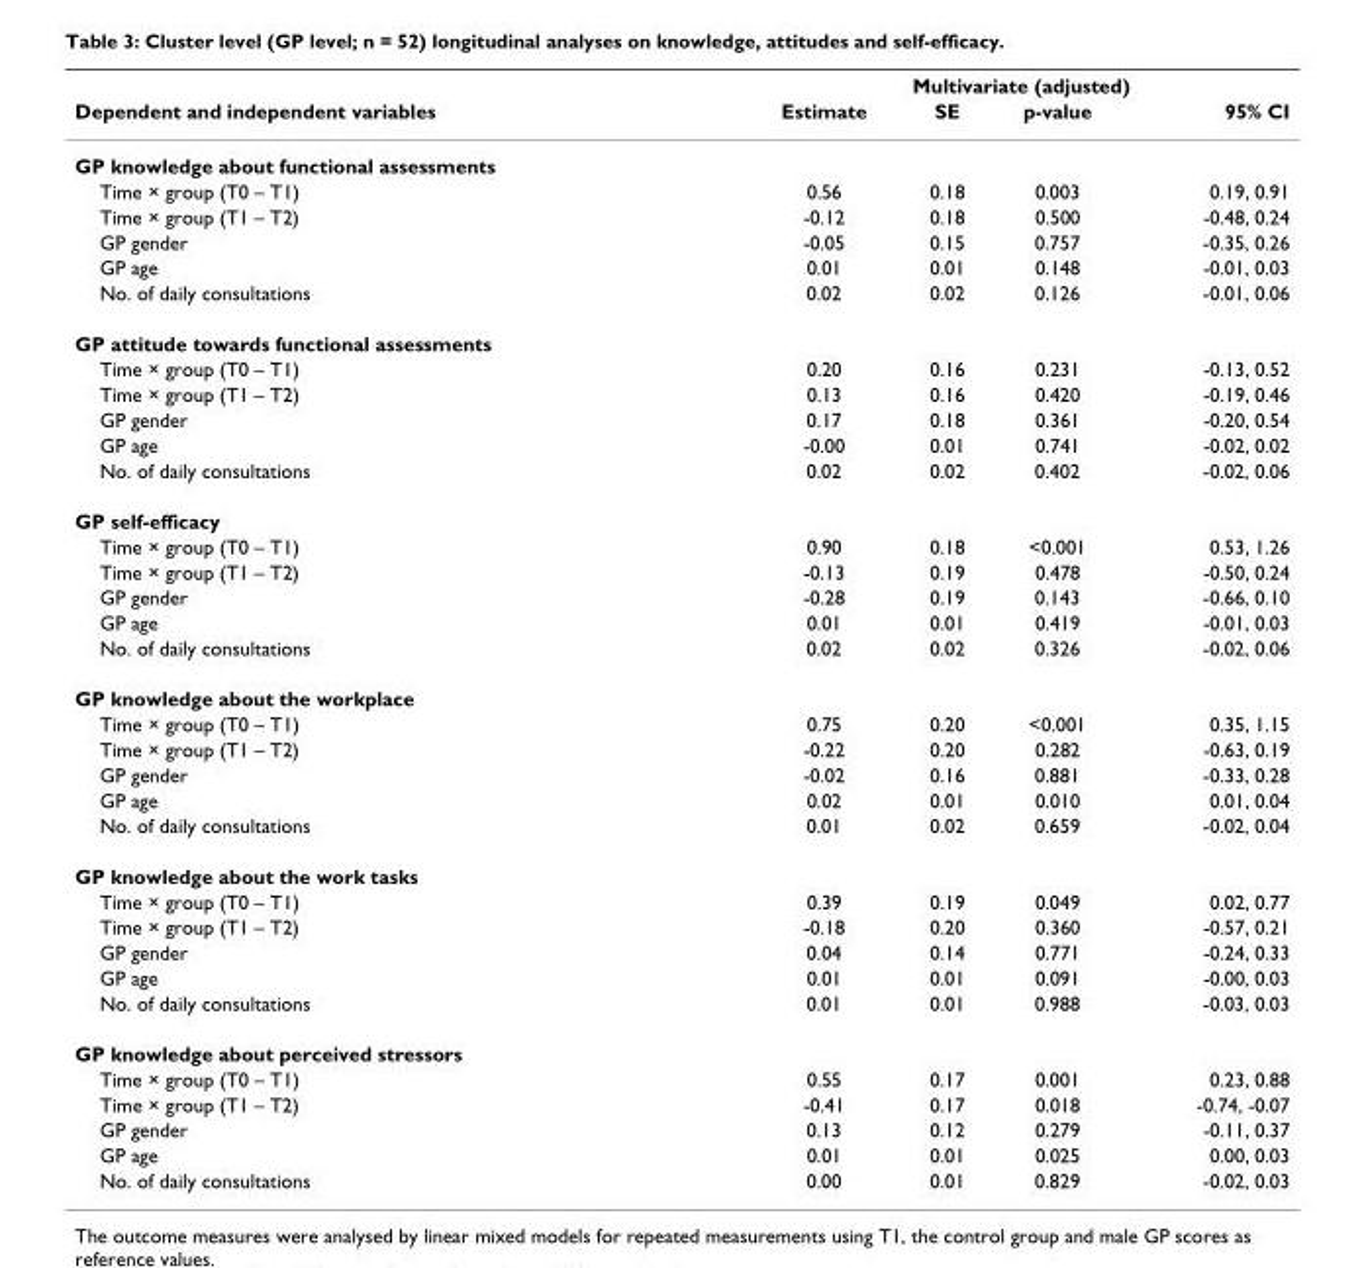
<table><thead><tr><td rowspan="2">Dependent and independent variables</td><td colspan="4">Multivariate (adjusted)</td></tr><tr><td>Estimate</td><td>SE</td><td>p-value</td><td>95% CI</td></tr></thead><tbody><tr><td colspan="5">GP knowledge about functional assessments</td></tr><tr><td>Time × group (T0 – T1)</td><td>0.56</td><td>0.18</td><td>0.003</td><td>0.19, 0.91</td></tr><tr><td>Time × group (T1 – T2)</td><td>-0.12</td><td>0.18</td><td>0.500</td><td>-0.48, 0.24</td></tr><tr><td>GP gender</td><td>-0.05</td><td>0.15</td><td>0.757</td><td>-0.35, 0.26</td></tr><tr><td>GP age</td><td>0.01</td><td>0.01</td><td>0.148</td><td>-0.01, 0.03</td></tr><tr><td>No. of daily consultations</td><td>0.02</td><td>0.02</td><td>0.126</td><td>-0.01, 0.06</td></tr><tr><td colspan="5">GP attitude towards functional assessments</td></tr><tr><td>Time × group (T0 – T1)</td><td>0.20</td><td>0.16</td><td>0.231</td><td>-0.13, 0.52</td></tr><tr><td>Time × group (T1 – T2)</td><td>0.13</td><td>0.16</td><td>0.420</td><td>-0.19, 0.46</td></tr><tr><td>GP gender</td><td>0.17</td><td>0.18</td><td>0.361</td><td>-0.20, 0.54</td></tr><tr><td>GP age</td><td>-0.00</td><td>0.01</td><td>0.741</td><td>-0.02, 0.02</td></tr><tr><td>No. of daily consultations</td><td>0.02</td><td>0.02</td><td>0.402</td><td>-0.02, 0.06</td></tr><tr><td colspan="5">GP self-efficacy</td></tr><tr><td>Time × group (T0 – T1)</td><td>0.90</td><td>0.18</td><td>&lt;0.001</td><td>0.53, 1.26</td></tr><tr><td>Time × group (T1 – T2)</td><td>-0.13</td><td>0.19</td><td>0.478</td><td>-0.50, 0.24</td></tr><tr><td>GP gender</td><td>-0.28</td><td>0.19</td><td>0.143</td><td>-0.66, 0.10</td></tr><tr><td>GP age</td><td>0.01</td><td>0.01</td><td>0.419</td><td>-0.01, 0.03</td></tr><tr><td>No. of daily consultations</td><td>0.02</td><td>0.02</td><td>0.326</td><td>-0.02, 0.06</td></tr><tr><td colspan="5">GP knowledge about the workplace</td></tr><tr><td>Time × group (T0 – T1)</td><td>0.75</td><td>0.20</td><td>&lt;0.001</td><td>0.35, 1.15</td></tr><tr><td>Time × group (T1 – T2)</td><td>-0.22</td><td>0.20</td><td>0.282</td><td>-0.63, 0.19</td></tr><tr><td>GP gender</td><td>-0.02</td><td>0.16</td><td>0.881</td><td>-0.33, 0.28</td></tr><tr><td>GP age</td><td>0.02</td><td>0.01</td><td>0.010</td><td>0.01, 0.04</td></tr><tr><td>No. of daily consultations</td><td>0.01</td><td>0.02</td><td>0.659</td><td>-0.02, 0.04</td></tr><tr><td colspan="5">GP knowledge about the work tasks</td></tr><tr><td>Time × group (T0 – T1)</td><td>0.39</td><td>0.19</td><td>0.049</td><td>0.02, 0.77</td></tr><tr><td>Time × group (T1 – T2)</td><td>-0.18</td><td>0.20</td><td>0.360</td><td>-0.57, 0.21</td></tr><tr><td>GP gender</td><td>0.04</td><td>0.14</td><td>0.771</td><td>-0.24, 0.33</td></tr><tr><td>GP age</td><td>0.01</td><td>0.01</td><td>0.091</td><td>-0.00, 0.03</td></tr><tr><td>No. of daily consultations</td><td>0.01</td><td>0.01</td><td>0.988</td><td>-0.03, 0.03</td></tr><tr><td colspan="5">GP knowledge about perceived stressors</td></tr><tr><td>Time × group (T0 – T1)</td><td>0.55</td><td>0.17</td><td>0.001</td><td>0.23, 0.88</td></tr><tr><td>Time × group (T1 – T2)</td><td>-0.41</td><td>0.17</td><td>0.018</td><td>-0.74, -0.07</td></tr><tr><td>GP gender</td><td>0.13</td><td>0.12</td><td>0.279</td><td>-0.11, 0.37</td></tr><tr><td>GP age</td><td>0.01</td><td>0.01</td><td>0.025</td><td>0.00, 0.03</td></tr><tr><td>No. of daily consultations</td><td>0.00</td><td>0.01</td><td>0.829</td><td>-0.02, 0.03</td></tr></tbody></table>